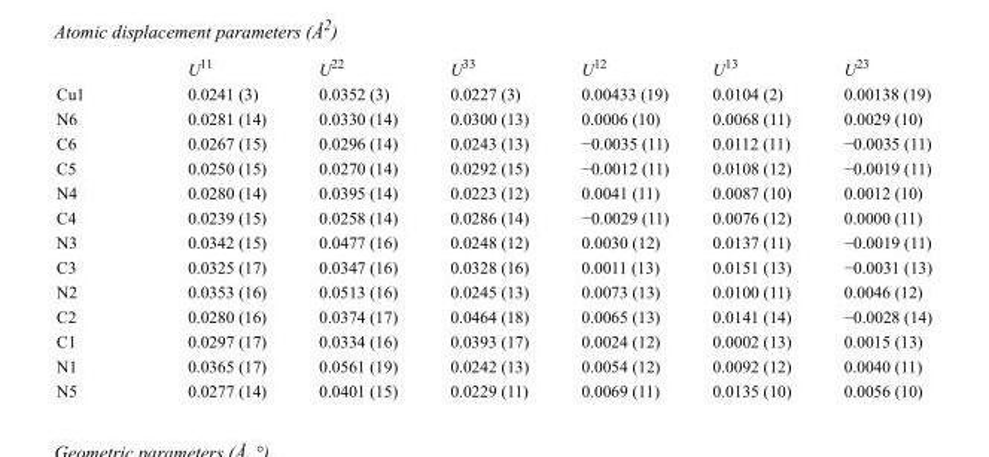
<table><thead><tr><td></td><td>U<sup>11</sup></td><td>U<sup>22</sup></td><td>U<sup>33</sup></td><td>U<sup>12</sup></td><td>U<sup>13</sup></td><td>U<sup>23</sup></td></tr></thead><tbody><tr><td>Cu1</td><td>0.0241 (3)</td><td>0.0352 (3)</td><td>0.0227 (3)</td><td>0.00433 (19)</td><td>0.0104 (2)</td><td>0.00138 (19)</td></tr><tr><td>N6</td><td>0.0281 (14)</td><td>0.0330 (14)</td><td>0.0300 (13)</td><td>0.0006 (10)</td><td>0.0068 (11)</td><td>0.0029 (10)</td></tr><tr><td>C6</td><td>0.0267 (15)</td><td>0.0296 (14)</td><td>0.0243 (13)</td><td>−0.0035 (11)</td><td>0.0112 (11)</td><td>−0.0035 (11)</td></tr><tr><td>C5</td><td>0.0250 (15)</td><td>0.0270 (14)</td><td>0.0292 (15)</td><td>−0.0012 (11)</td><td>0.0108 (12)</td><td>−0.0019 (11)</td></tr><tr><td>N4</td><td>0.0280 (14)</td><td>0.0395 (14)</td><td>0.0223 (12)</td><td>0.0041 (11)</td><td>0.0087 (10)</td><td>0.0012 (10)</td></tr><tr><td>C4</td><td>0.0239 (15)</td><td>0.0258 (14)</td><td>0.0286 (14)</td><td>−0.0029 (11)</td><td>0.0076 (12)</td><td>0.0000 (11)</td></tr><tr><td>N3</td><td>0.0342 (15)</td><td>0.0477 (16)</td><td>0.0248 (12)</td><td>0.0030 (12)</td><td>0.0137 (11)</td><td>−0.0019 (11)</td></tr><tr><td>C3</td><td>0.0325 (17)</td><td>0.0347 (16)</td><td>0.0328 (16)</td><td>0.0011 (13)</td><td>0.0151 (13)</td><td>−0.0031 (13)</td></tr><tr><td>N2</td><td>0.0353 (16)</td><td>0.0513 (16)</td><td>0.0245 (13)</td><td>0.0073 (13)</td><td>0.0100 (11)</td><td>0.0046 (12)</td></tr><tr><td>C2</td><td>0.0280 (16)</td><td>0.0374 (17)</td><td>0.0464 (18)</td><td>0.0065 (13)</td><td>0.0141 (14)</td><td>−0.0028 (14)</td></tr><tr><td>C1</td><td>0.0297 (17)</td><td>0.0334 (16)</td><td>0.0393 (17)</td><td>0.0024 (12)</td><td>0.0002 (13)</td><td>0.0015 (13)</td></tr><tr><td>N1</td><td>0.0365 (17)</td><td>0.0561 (19)</td><td>0.0242 (13)</td><td>0.0054 (12)</td><td>0.0092 (12)</td><td>0.0040 (11)</td></tr><tr><td>N5</td><td>0.0277 (14)</td><td>0.0401 (15)</td><td>0.0229 (11)</td><td>0.0069 (11)</td><td>0.0135 (10)</td><td>0.0056 (10)</td></tr></tbody></table>